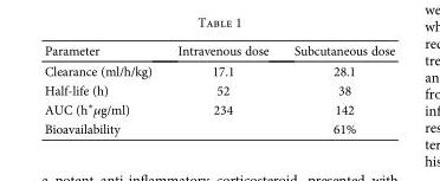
<table><thead><tr><td>Parameter</td><td>Intravenous dose</td><td>Subcutaneous dose</td></tr></thead><tbody><tr><td>Clearance (ml/h/kg)</td><td>17.1</td><td>28.1</td></tr><tr><td>Half-life (h)</td><td>52</td><td>38</td></tr><tr><td>AUC (h∗μg/ml)</td><td>234</td><td>142</td></tr><tr><td>Bioavailability</td><td></td><td>61%</td></tr></tbody></table>